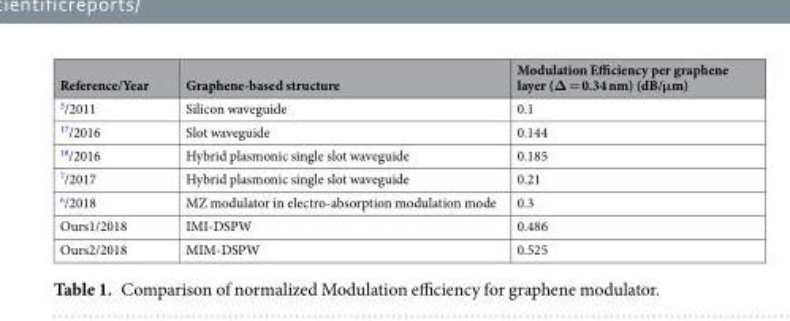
<table><thead><tr><td>Reference/Year</td><td>Graphene-based structure</td><td>Modulation Efficiency per graphene layer (Δ = 0.34 nm) (dB/μm)</td></tr></thead><tbody><tr><td><sup>3</sup>/2011</td><td>Silicon waveguide</td><td>0.1</td></tr><tr><td><sup>17</sup>/2016</td><td>Slot waveguide</td><td>0.144</td></tr><tr><td><sup>18</sup>/2016</td><td>Hybrid plasmonic single slot waveguide</td><td>0.185</td></tr><tr><td><sup>7</sup>/2017</td><td>Hybrid plasmonic single slot waveguide</td><td>0.21</td></tr><tr><td><sup>6</sup>/2018</td><td>MZ modulator in electro-absorption modulation mode</td><td>0.3</td></tr><tr><td>Ours1/2018</td><td>IMI-DSPW</td><td>0.486</td></tr><tr><td>Ours2/2018</td><td>MIM-DSPW</td><td>0.525</td></tr></tbody></table>